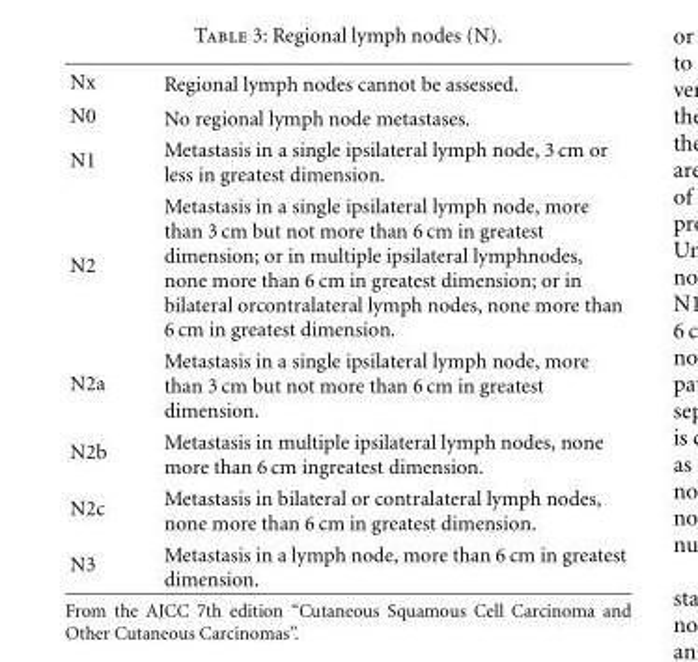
<table><tbody><tr><td>Nx</td><td>Regional lymph nodes cannot be assessed.</td></tr><tr><td>N0</td><td>No regional lymph node metastases.</td></tr><tr><td>N1</td><td>Metastasis in a single ipsilateral lymph node, 3 cm or less in greatest dimension.</td></tr><tr><td>N2</td><td>Metastasis in a single ipsilateral lymph node, more than 3 cm but not more than 6 cm in greatest dimension; or in multiple ipsilateral lymphnodes, none more than 6 cm in greatest dimension; or in bilateral orcontralateral lymph nodes, none more than 6 cm in greatest dimension.</td></tr><tr><td>N2a</td><td>Metastasis in a single ipsilateral lymph node, more than 3 cm but not more than 6 cm in greatest dimension.</td></tr><tr><td>N2b</td><td>Metastasis in multiple ipsilateral lymph nodes, none more than 6 cm ingreatest dimension.</td></tr><tr><td>N2c</td><td>Metastasis in bilateral or contralateral lymph nodes, none more than 6 cm in greatest dimension.</td></tr><tr><td>N3</td><td>Metastasis in a lymph node, more than 6 cm in greatest dimension.</td></tr></tbody></table>